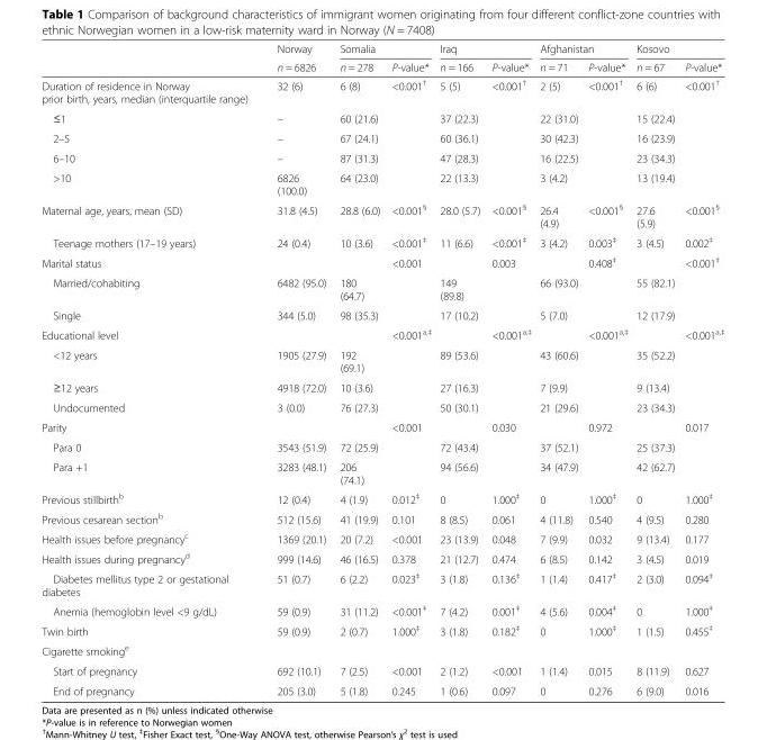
<table><thead><tr><td rowspan="2"></td><td rowspan="2">Norway n = 6826</td><td colspan="2">Somalia</td><td colspan="2">Iraq</td><td colspan="2">Afghanistan</td><td colspan="2">Kosovo</td></tr><tr><td>n = 278</td><td>P-value*</td><td>n = 166</td><td>P-value*</td><td>n = 71</td><td>P-value*</td><td>n = 67</td><td>P-value*</td></tr></thead><tbody><tr><td>Duration of residence in Norway prior birth, years, median (interquartile range)</td><td>32 (6)</td><td>6 (8)</td><td>&lt;0.001<sup>†</sup></td><td>5 (5)</td><td>&lt;0.001<sup>†</sup></td><td>2 (5)</td><td>&lt;0.001<sup>†</sup></td><td>6 (6)</td><td>&lt;0.001<sup>†</sup></td></tr><tr><td>≤1</td><td>–</td><td>60 (21.6)</td><td></td><td>37 (22.3)</td><td></td><td>22 (31.0)</td><td></td><td>15 (22.4)</td><td></td></tr><tr><td>2–5</td><td>–</td><td>67 (24.1)</td><td></td><td>60 (36.1)</td><td></td><td>30 (42.3)</td><td></td><td>16 (23.9)</td><td></td></tr><tr><td>6–10</td><td>–</td><td>87 (31.3)</td><td></td><td>47 (28.3)</td><td></td><td>16 (22.5)</td><td></td><td>23 (34.3)</td><td></td></tr><tr><td>&gt;10</td><td>6826 (100.0)</td><td>64 (23.0)</td><td></td><td>22 (13.3)</td><td></td><td>3 (4.2)</td><td></td><td>13 (19.4)</td><td></td></tr><tr><td>Maternal age, years, mean (SD)</td><td>31.8 (4.5)</td><td>28.8 (6.0)</td><td>&lt;0.001<sup>§</sup></td><td>28.0 (5.7)</td><td>&lt;0.001<sup>§</sup></td><td>26.4 (4.9)</td><td>&lt;0.001<sup>§</sup></td><td>27.6 (5.9)</td><td>&lt;0.001<sup>§</sup></td></tr><tr><td>Teenage mothers (17–19 years)</td><td>24 (0.4)</td><td>10 (3.6)</td><td>&lt;0.001<sup>‡</sup></td><td>11 (6.6)</td><td>&lt;0.001<sup>‡</sup></td><td>3 (4.2)</td><td>0.003<sup>‡</sup></td><td>3 (4.5)</td><td>0.002<sup>‡</sup></td></tr><tr><td>Marital status</td><td></td><td></td><td>&lt;0.001</td><td></td><td>0.003</td><td></td><td>0.408<sup>‡</sup></td><td></td><td>&lt;0.001<sup>‡</sup></td></tr><tr><td>Married/cohabiting</td><td>6482 (95.0)</td><td>180 (64.7)</td><td></td><td>149 (89.8)</td><td></td><td>66 (93.0)</td><td></td><td>55 (82.1)</td><td></td></tr><tr><td>Single</td><td>344 (5.0)</td><td>98 (35.3)</td><td></td><td>17 (10.2)</td><td></td><td>5 (7.0)</td><td></td><td>12 (17.9)</td><td></td></tr><tr><td>Educational level</td><td></td><td></td><td>&lt;0.001<sup>a,‡</sup></td><td></td><td>&lt;0.001<sup>a,‡</sup></td><td></td><td>&lt;0.001<sup>a,‡</sup></td><td></td><td>&lt;0.001<sup>a,‡</sup></td></tr><tr><td>&lt;12 years</td><td>1905 (27.9)</td><td>192 (69.1)</td><td></td><td>89 (53.6)</td><td></td><td>43 (60.6)</td><td></td><td>35 (52.2)</td><td></td></tr><tr><td>≥12 years</td><td>4918 (72.0)</td><td>10 (3.6)</td><td></td><td>27 (16.3)</td><td></td><td>7 (9.9)</td><td></td><td>9 (13.4)</td><td></td></tr><tr><td>Undocumented</td><td>3 (0.0)</td><td>76 (27.3)</td><td></td><td>50 (30.1)</td><td></td><td>21 (29.6)</td><td></td><td>23 (34.3)</td><td></td></tr><tr><td>Parity</td><td></td><td></td><td>&lt;0.001</td><td></td><td>0.030</td><td></td><td>0.972</td><td></td><td>0.017</td></tr><tr><td>Para 0</td><td>3543 (51.9)</td><td>72 (25.9)</td><td></td><td>72 (43.4)</td><td></td><td>37 (52.1)</td><td></td><td>25 (37.3)</td><td></td></tr><tr><td>Para +1</td><td>3283 (48.1)</td><td>206 (74.1)</td><td></td><td>94 (56.6)</td><td></td><td>34 (47.9)</td><td></td><td>42 (62.7)</td><td></td></tr><tr><td>Previous stillbirth<sup>b</sup></td><td>12 (0.4)</td><td>4 (1.9)</td><td>0.012<sup>‡</sup></td><td>0</td><td>1.000<sup>‡</sup></td><td>0</td><td>1.000<sup>‡</sup></td><td>0</td><td>1.000<sup>‡</sup></td></tr><tr><td>Previous cesarean section<sup>b</sup></td><td>512 (15.6)</td><td>41 (19.9)</td><td>0.101</td><td>8 (8.5)</td><td>0.061</td><td>4 (11.8)</td><td>0.540</td><td>4 (9.5)</td><td>0.280</td></tr><tr><td>Health issues before pregnancy<sup>c</sup></td><td>1369 (20.1)</td><td>20 (7.2)</td><td>&lt;0.001</td><td>23 (13.9)</td><td>0.048</td><td>7 (9.9)</td><td>0.032</td><td>9 (13.4)</td><td>0.177</td></tr><tr><td>Health issues during pregnancy<sup>d</sup></td><td>999 (14.6)</td><td>46 (16.5)</td><td>0.378</td><td>21 (12.7)</td><td>0.474</td><td>6 (8.5)</td><td>0.142</td><td>3 (4.5)</td><td>0.019</td></tr><tr><td>Diabetes mellitus type 2 or gestational diabetes</td><td>51 (0.7)</td><td>6 (2.2)</td><td>0.023<sup>‡</sup></td><td>3 (1.8)</td><td>0.136<sup>‡</sup></td><td>1 (1.4)</td><td>0.417<sup>‡</sup></td><td>2 (3.0)</td><td>0.094<sup>‡</sup></td></tr><tr><td>Anemia (hemoglobin level &lt;9 g/dL)</td><td>59 (0.9)</td><td>31 (11.2)</td><td>&lt;0.001<sup>‡</sup></td><td>7 (4.2)</td><td>0.001<sup>‡</sup></td><td>4 (5.6)</td><td>0.004<sup>‡</sup></td><td>0</td><td>1.000<sup>‡</sup></td></tr><tr><td>Twin birth</td><td>59 (0.9)</td><td>2 (0.7)</td><td>1.000<sup>‡</sup></td><td>3 (1.8)</td><td>0.182<sup>‡</sup></td><td>0</td><td>1.000<sup>‡</sup></td><td>1 (1.5)</td><td>0.455<sup>‡</sup></td></tr><tr><td colspan="10">Cigarette smoking<sup>e</sup></td></tr><tr><td>Start of pregnancy</td><td>692 (10.1)</td><td>7 (2.5)</td><td>&lt;0.001</td><td>2 (1.2)</td><td>&lt;0.001</td><td>1 (1.4)</td><td>0.015</td><td>8 (11.9)</td><td>0.627</td></tr><tr><td>End of pregnancy</td><td>205 (3.0)</td><td>5 (1.8)</td><td>0.245</td><td>1 (0.6)</td><td>0.097</td><td>0</td><td>0.276</td><td>6 (9.0)</td><td>0.016</td></tr></tbody></table>